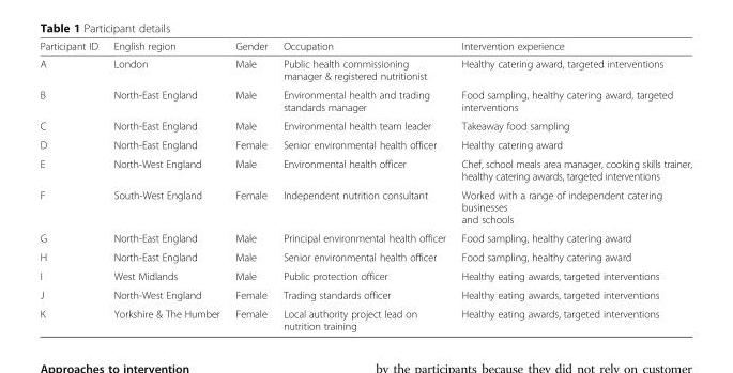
<table><thead><tr><td>Participant ID</td><td>English region</td><td>Gender</td><td>Occupation</td><td>Intervention experience</td></tr></thead><tbody><tr><td>A</td><td>London</td><td>Male</td><td>Public health commissioning manager &amp; registered nutritionist</td><td>Healthy catering award, targeted interventions</td></tr><tr><td>B</td><td>North-East England</td><td>Male</td><td>Environmental health and trading standards manager</td><td>Food sampling, healthy catering award, targeted interventions</td></tr><tr><td>C</td><td>North-East England</td><td>Male</td><td>Environmental health team leader</td><td>Takeaway food sampling</td></tr><tr><td>D</td><td>North-East England</td><td>Female</td><td>Senior environmental health officer</td><td>Healthy catering award</td></tr><tr><td>E</td><td>North-West England</td><td>Male</td><td>Environmental health officer</td><td>Chef, school meals area manager, cooking skills trainer, healthy catering awards, targeted interventions</td></tr><tr><td>F</td><td>South-West England</td><td>Female</td><td>Independent nutrition consultant</td><td>Worked with a range of independent catering businesses and schools</td></tr><tr><td>G</td><td>North-East England</td><td>Male</td><td>Principal environmental health officer</td><td>Food sampling, healthy catering award</td></tr><tr><td>H</td><td>North-East England</td><td>Male</td><td>Senior environmental health officer</td><td>Food sampling, healthy catering award</td></tr><tr><td>I</td><td>West Midlands</td><td>Male</td><td>Public protection officer</td><td>Healthy eating awards, targeted interventions</td></tr><tr><td>J</td><td>North-West England</td><td>Female</td><td>Trading standards officer</td><td>Healthy eating awards, targeted interventions</td></tr><tr><td>K</td><td>Yorkshire &amp; The Humber</td><td>Female</td><td>Local authority project lead on nutrition training</td><td>Healthy eating awards, targeted interventions</td></tr></tbody></table>